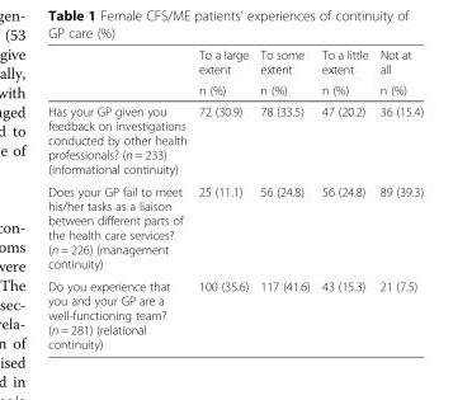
<table><thead><tr><td rowspan="2"></td><td rowspan="2">To a large extent n (%)</td><td rowspan="2">To some extent n (%)</td><td rowspan="2">To a little extent n (%)</td><td rowspan="2">Not at all n (%)</td></tr><tr></tr></thead><tbody><tr><td>Has your GP given you feedback on investigations conducted by other health professionals? (n = 233) (informational continuity)</td><td>72 (30.9)</td><td>78 (33.5)</td><td>47 (20.2)</td><td>36 (15.4)</td></tr><tr><td>Does your GP fail to meet his/her tasks as a liaison between different parts of the health care services? (n = 226) (management continuity)</td><td>25 (11.1)</td><td>56 (24.8)</td><td>56 (24.8)</td><td>89 (39.3)</td></tr><tr><td>Do you experience that you and your GP are a well-functioning team? (n = 281) (relational continuity)</td><td>100 (35.6)</td><td>117 (41.6)</td><td>43 (15.3)</td><td>21 (7.5)</td></tr></tbody></table>